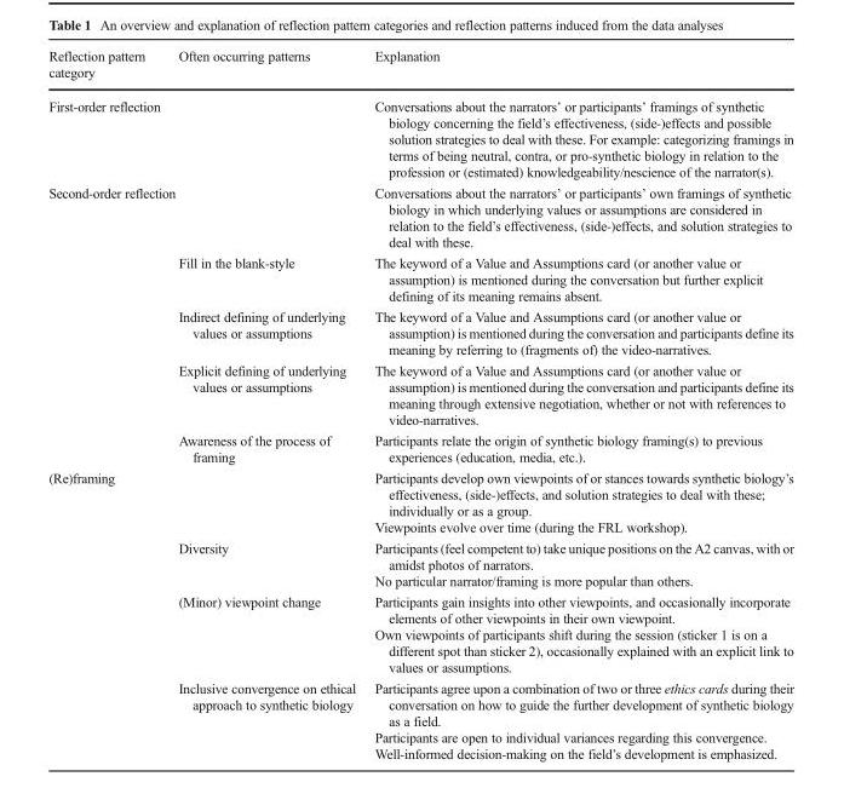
<table><thead><tr><td>Reflection pattern category</td><td>Often occurring patterns</td><td>Explanation</td></tr></thead><tbody><tr><td colspan="2">First-order reflection</td><td>Conversations about the narrators’ or participants’ framings of synthetic biology concerning the field’s effectiveness, (side-)effects and possible solution strategies to deal with these. For example: categorizing framings in terms of being neutral, contra, or pro-synthetic biology in relation to the profession or (estimated) knowledgeability/nescience of the narrator(s).</td></tr><tr><td colspan="2">Second-order reflection</td><td>Conversations about the narrators’ or participants’ own framings of synthetic biology in which underlying values or assumptions are considered in relation to the field’s effectiveness, (side-)effects, and solution strategies to deal with these.</td></tr><tr><td></td><td>Fill in the blank-style</td><td>The keyword of a Value and Assumptions card (or another value or assumption) is mentioned during the conversation but further explicit defining of its meaning remains absent.</td></tr><tr><td></td><td>Indirect defining of underlying values or assumptions</td><td>The keyword of a Value and Assumptions card (or another value or assumption) is mentioned during the conversation and participants define its meaning by referring to (fragments of) the video-narratives.</td></tr><tr><td></td><td>Explicit defining of underlying values or assumptions</td><td>The keyword of a Value and Assumptions card (or another value or assumption) is mentioned during the conversation and participants define its meaning through extensive negotiation, whether or not with references to video-narratives.</td></tr><tr><td></td><td>Awareness of the process of framing</td><td>Participants relate the origin of synthetic biology framing(s) to previous experiences (education, media, etc.).</td></tr><tr><td colspan="2">(Re)framing</td><td>Participants develop own viewpoints of or stances towards synthetic biology’s effectiveness, (side-)effects, and solution strategies to deal with these; individually or as a group. Viewpoints evolve over time (during the FRL workshop).</td></tr><tr><td></td><td>Diversity</td><td>Participants (feel competent to) take unique positions on the A2 canvas, with or amidst photos of narrators. No particular narrator/framing is more popular than others.</td></tr><tr><td></td><td>(Minor) viewpoint change</td><td>Participants gain insights into other viewpoints, and occasionally incorporate elements of other viewpoints in their own viewpoint. Own viewpoints of participants shift during the session (sticker 1 is on a different spot than sticker 2), occasionally explained with an explicit link to values or assumptions.</td></tr><tr><td></td><td>Inclusive convergence on ethical approach to synthetic biology</td><td>Participants agree upon a combination of two or three ethics cards during their conversation on how to guide the further development of synthetic biology as a field. Participants are open to individual variances regarding this convergence. Well-informed decision-making on the field’s development is emphasized.</td></tr></tbody></table>